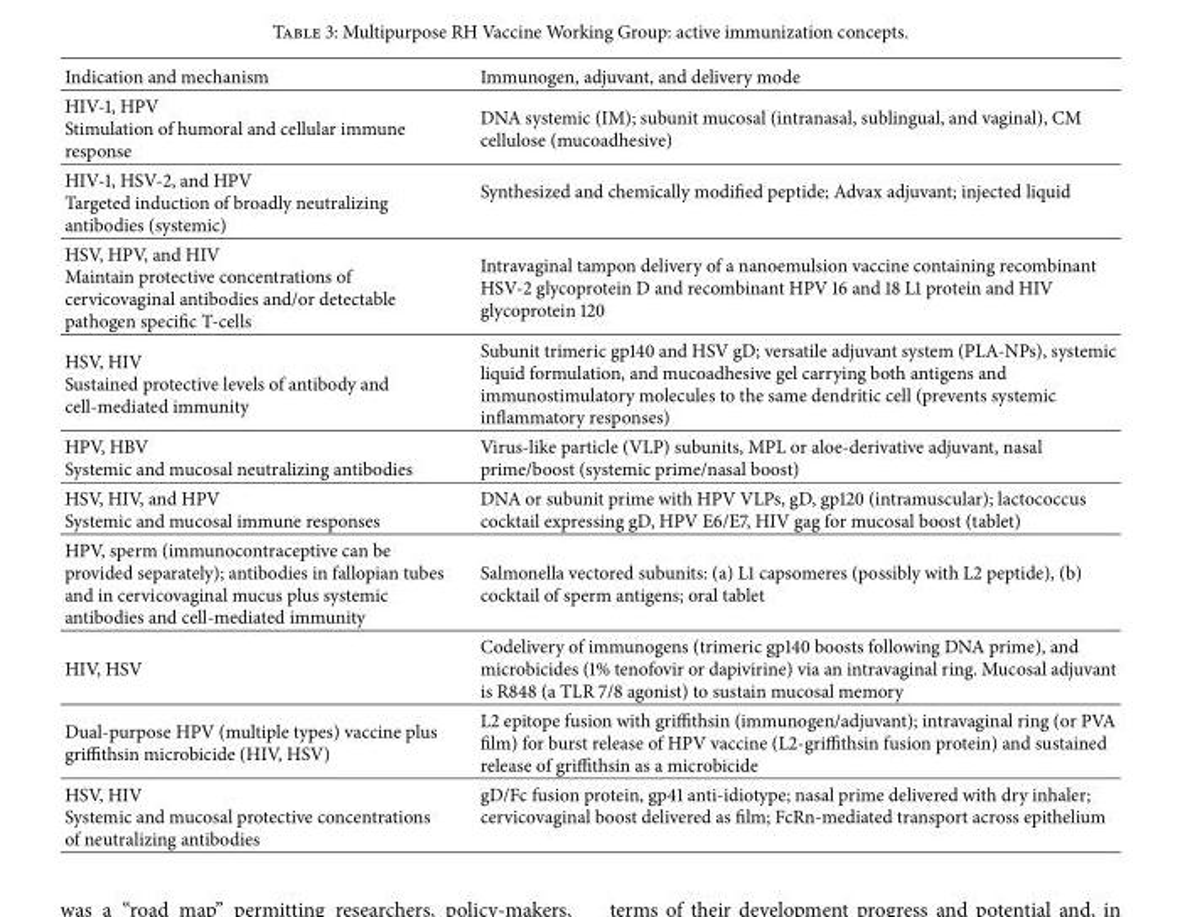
<table><thead><tr><td>Indication and mechanism</td><td>Immunogen, adjuvant, and delivery mode</td></tr></thead><tbody><tr><td>HIV-1, HPV Stimulation of humoral and cellular immune response</td><td>DNA systemic (IM); subunit mucosal (intranasal, sublingual, and vaginal), CM cellulose (mucoadhesive)</td></tr><tr><td>HIV-1, HSV-2, and HPV Targeted induction of broadly neutralizing antibodies (systemic)</td><td>Synthesized and chemically modified peptide; Advax adjuvant; injected liquid</td></tr><tr><td>HSV, HPV, and HIV Maintain protective concentrations of cervicovaginal antibodies and/or detectable pathogen specific T-cells</td><td>Intravaginal tampon delivery of a nanoemulsion vaccine containing recombinant HSV-2 glycoprotein D and recombinant HPV 16 and 18 L1 protein and HIV glycoprotein 120</td></tr><tr><td>HSV, HIV Sustained protective levels of antibody and cell-mediated immunity</td><td>Subunit trimeric gp140 and HSV gD; versatile adjuvant system (PLA-NPs), systemic liquid formulation, and mucoadhesive gel carrying both antigens and immunostimulatory molecules to the same dendritic cell (prevents systemic inflammatory responses)</td></tr><tr><td>HPV, HBV Systemic and mucosal neutralizing antibodies</td><td>Virus-like particle (VLP) subunits, MPL or aloe-derivative adjuvant, nasal prime/boost (systemic prime/nasal boost)</td></tr><tr><td>HSV, HIV, and HPV Systemic and mucosal immune responses</td><td>DNA or subunit prime with HPV VLPs, gD, gp120 (intramuscular); lactococcus cocktail expressing gD, HPV E6/E7, HIV gag for mucosal boost (tablet)</td></tr><tr><td>HPV, sperm (immunocontraceptive can be provided separately); antibodies in fallopian tubes and in cervicovaginal mucus plus systemic antibodies and cell-mediated immunity</td><td>Salmonella vectored subunits: (a) L1 capsomeres (possibly with L2 peptide), (b) cocktail of sperm antigens; oral tablet</td></tr><tr><td>HIV, HSV</td><td>Codelivery of immunogens (trimeric gp140 boosts following DNA prime), and microbicides (1% tenofovir or dapivirine) via an intravaginal ring. Mucosal adjuvant is R848 (a TLR 7/8 agonist) to sustain mucosal memory</td></tr><tr><td>Dual-purpose HPV (multiple types) vaccine plus griffithsin microbicide (HIV, HSV)</td><td>L2 epitope fusion with griffithsin (immunogen/adjuvant); intravaginal ring (or PVA film) for burst release of HPV vaccine (L2-griffithsin fusion protein) and sustained release of griffithsin as a microbicide</td></tr><tr><td>HSV, HIV Systemic and mucosal protective concentrations of neutralizing antibodies</td><td>gD/Fc fusion protein, gp41 anti-idiotype; nasal prime delivered with dry inhaler; cervicovaginal boost delivered as film; FcRn-mediated transport across epithelium</td></tr></tbody></table>